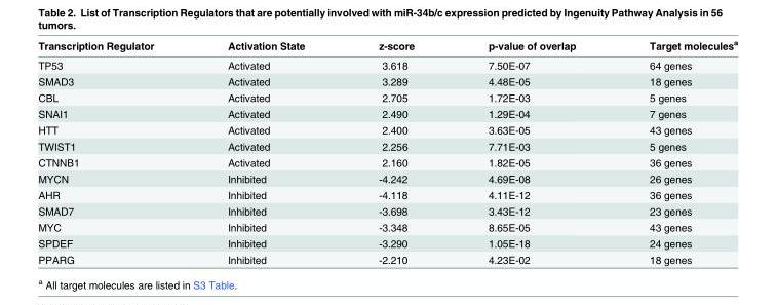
<table><thead><tr><td>Transcription Regulator</td><td>Activation State</td><td>z-score</td><td>p-value of overlap</td><td>Target molecules<sup>a</sup></td></tr></thead><tbody><tr><td>TP53</td><td>Activated</td><td>3.618</td><td>7.50E-07</td><td>64 genes</td></tr><tr><td>SMAD3</td><td>Activated</td><td>3.289</td><td>4.48E-05</td><td>18 genes</td></tr><tr><td>CBL</td><td>Activated</td><td>2.705</td><td>1.72E-03</td><td>5 genes</td></tr><tr><td>SNAI1</td><td>Activated</td><td>2.490</td><td>1.29E-04</td><td>7 genes</td></tr><tr><td>HTT</td><td>Activated</td><td>2.400</td><td>3.63E-05</td><td>43 genes</td></tr><tr><td>TWIST1</td><td>Activated</td><td>2.256</td><td>7.71E-03</td><td>5 genes</td></tr><tr><td>CTNNB1</td><td>Activated</td><td>2.160</td><td>1.82E-05</td><td>36 genes</td></tr><tr><td>MYCN</td><td>Inhibited</td><td>-4.242</td><td>4.69E-08</td><td>26 genes</td></tr><tr><td>AHR</td><td>Inhibited</td><td>-4.118</td><td>4.11E-12</td><td>36 genes</td></tr><tr><td>SMAD7</td><td>Inhibited</td><td>-3.698</td><td>3.43E-12</td><td>23 genes</td></tr><tr><td>MYC</td><td>Inhibited</td><td>-3.348</td><td>8.65E-05</td><td>43 genes</td></tr><tr><td>SPDEF</td><td>Inhibited</td><td>-3.290</td><td>1.05E-18</td><td>24 genes</td></tr><tr><td>PPARG</td><td>Inhibited</td><td>-2.210</td><td>4.23E-02</td><td>18 genes</td></tr></tbody></table>